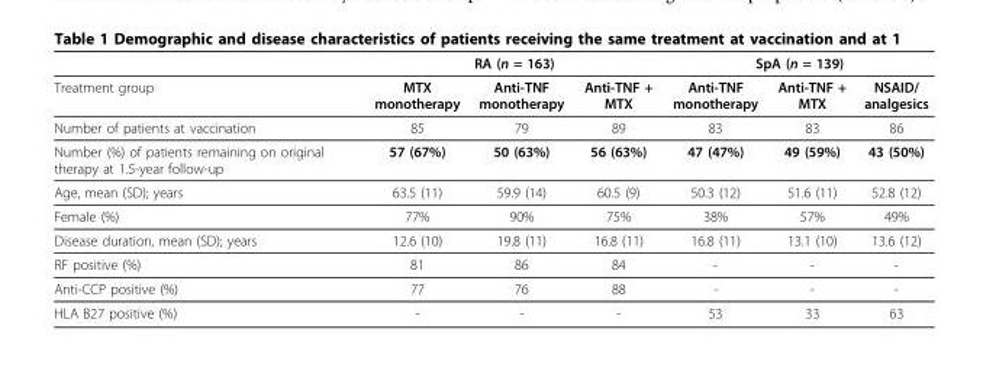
<table><thead><tr><td rowspan="2">Treatment group</td><td colspan="3">RA (n = 163)</td><td colspan="3">SpA (n = 139)</td></tr><tr><td>MTX monotherapy</td><td>Anti-TNF monotherapy</td><td>Anti-TNF + MTX</td><td>Anti-TNF monotherapy</td><td>Anti-TNF + MTX</td><td>NSAID/ analgesics</td></tr></thead><tbody><tr><td>Number of patients at vaccination</td><td>85</td><td>79</td><td>89</td><td>83</td><td>83</td><td>86</td></tr><tr><td>Number (%) of patients remaining on original therapy at 1.5-year follow-up</td><td>57 (67%)</td><td>50 (63%)</td><td>56 (63%)</td><td>47 (47%)</td><td>49 (59%)</td><td>43 (50%)</td></tr><tr><td>Age, mean (SD); years</td><td>63.5 (11)</td><td>59.9 (14)</td><td>60.5 (9)</td><td>50.3 (12)</td><td>51.6 (11)</td><td>52.8 (12)</td></tr><tr><td>Female (%)</td><td>77%</td><td>90%</td><td>75%</td><td>38%</td><td>57%</td><td>49%</td></tr><tr><td>Disease duration, mean (SD); years</td><td>12.6 (10)</td><td>19.8 (11)</td><td>16.8 (11)</td><td>16.8 (11)</td><td>13.1 (10)</td><td>13.6 (12)</td></tr><tr><td>RF positive (%)</td><td>81</td><td>86</td><td>84</td><td>-</td><td>-</td><td>-</td></tr><tr><td>Anti-CCP positive (%)</td><td>77</td><td>76</td><td>88</td><td>-</td><td>-</td><td>-</td></tr><tr><td>HLA B27 positive (%)</td><td>-</td><td>-</td><td>-</td><td>53</td><td>33</td><td>63</td></tr></tbody></table>